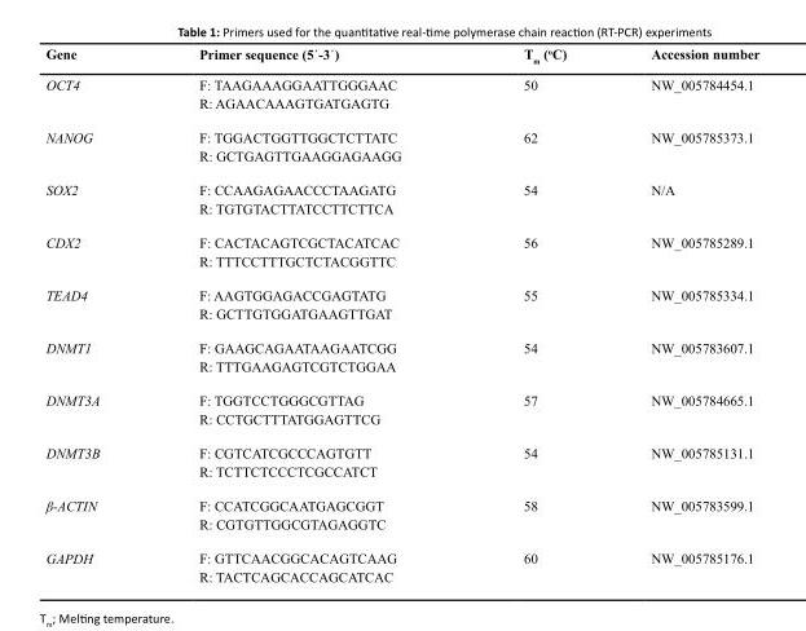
<table><thead><tr><td>Gene</td><td>Primer sequence (5´-3´)</td><td>Tm (oC)</td><td>Accession number</td></tr></thead><tbody><tr><td rowspan="2">OCT4</td><td>F: TAAGAAAGGAATTGGGAAC</td><td>50</td><td>NW_005784454.1</td></tr><tr><td>R: AGAACAAAGTGATGAGTG</td><td></td><td></td></tr><tr><td rowspan="2">NANOG</td><td>F: TGGACTGGTTGGCTCTTATC</td><td>62</td><td>NW_005785373.1</td></tr><tr><td>R: GCTGAGTTGAAGGAGAAGG</td><td></td><td></td></tr><tr><td rowspan="2">SOX2</td><td>F: CCAAGAGAACCCTAAGATG</td><td>54</td><td>N/A</td></tr><tr><td>R: TGTGTACTTATCCTTCTTCA</td><td></td><td></td></tr><tr><td rowspan="2">CDX2</td><td>F: CACTACAGTCGCTACATCAC</td><td>56</td><td>NW_005785289.1</td></tr><tr><td>R: TTTCCTTTGCTCTACGGTTC</td><td></td><td></td></tr><tr><td rowspan="2">TEAD4</td><td>F: AAGTGGAGACCGAGTATG</td><td>55</td><td>NW_005785334.1</td></tr><tr><td>R: GCTTGTGGATGAAGTTGAT</td><td></td><td></td></tr><tr><td rowspan="2">DNMT1</td><td>F: GAAGCAGAATAAGAATCGG</td><td>54</td><td>NW_005783607.1</td></tr><tr><td>R: TTTGAAGAGTCGTCTGGAA</td><td></td><td></td></tr><tr><td rowspan="2">DNMT3A</td><td>F: TGGTCCTGGGCGTTAG</td><td>57</td><td>NW_005784665.1</td></tr><tr><td>R: CCTGCTTTATGGAGTTCG</td><td></td><td></td></tr><tr><td rowspan="2">DNMT3B</td><td>F: CGTCATCGCCCAGTGTT</td><td>54</td><td>NW_005785131.1</td></tr><tr><td>R: TCTTCTCCCTCGCCATCT</td><td></td><td></td></tr><tr><td rowspan="2">β-ACTIN</td><td>F: CCATCGGCAATGAGCGGT</td><td>58</td><td>NW_005783599.1</td></tr><tr><td>R: CGTGTTGGCGTAGAGGTC</td><td></td><td></td></tr><tr><td rowspan="2">GAPDH</td><td>F: GTTCAACGGCACAGTCAAG</td><td>60</td><td>NW_005785176.1</td></tr><tr><td>R: TACTCAGCACCAGCATCAC</td><td></td><td></td></tr></tbody></table>